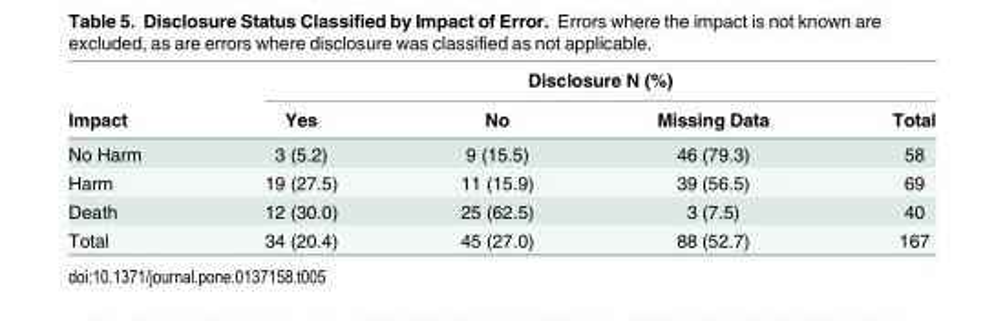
<table><thead><tr><td rowspan="2">Impact</td><td colspan="4">Disclosure N (%)</td></tr><tr><td>Yes</td><td>No</td><td>Missing Data</td><td>Total</td></tr></thead><tbody><tr><td>No Harm</td><td>3 (5.2)</td><td>9 (15.5)</td><td>46 (79.3)</td><td>58</td></tr><tr><td>Harm</td><td>19 (27.5)</td><td>11 (15.9)</td><td>39 (56.5)</td><td>69</td></tr><tr><td>Death</td><td>12 (30.0)</td><td>25 (62.5)</td><td>3 (7.5)</td><td>40</td></tr><tr><td>Total</td><td>34 (20.4)</td><td>45 (27.0)</td><td>88 (52.7)</td><td>167</td></tr></tbody></table>